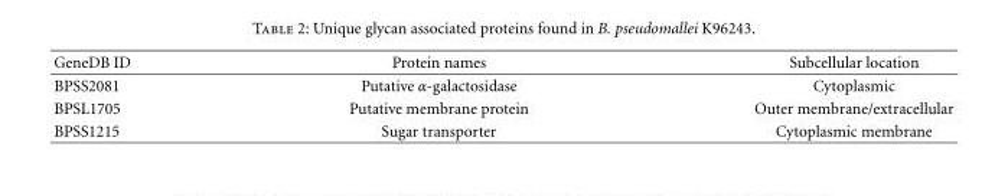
<table><thead><tr><td>GeneDB ID</td><td>Protein names</td><td>Subcellular location</td></tr></thead><tbody><tr><td>BPSS2081</td><td>Putative α-galactosidase</td><td>Cytoplasmic</td></tr><tr><td>BPSL1705</td><td>Putative membrane protein</td><td>Outer membrane/extracellular</td></tr><tr><td>BPSS1215</td><td>Sugar transporter</td><td>Cytoplasmic membrane</td></tr></tbody></table>